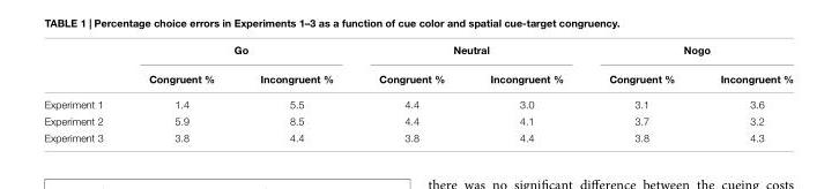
<table><thead><tr><td rowspan="2"></td><td colspan="2">Go</td><td colspan="2">Neutral</td><td colspan="2">Nogo</td></tr><tr><td>Congruent %</td><td>Incongruent %</td><td>Congruent %</td><td>Incongruent %</td><td>Congruent %</td><td>Incongruent %</td></tr></thead><tbody><tr><td>Experiment 1</td><td>1.4</td><td>5.5</td><td>4.4</td><td>3.0</td><td>3.1</td><td>3.6</td></tr><tr><td>Experiment 2</td><td>5.9</td><td>8.5</td><td>4.4</td><td>4.1</td><td>3.7</td><td>3.2</td></tr><tr><td>Experiment 3</td><td>3.8</td><td>4.4</td><td>3.8</td><td>4.4</td><td>3.8</td><td>4.3</td></tr></tbody></table>